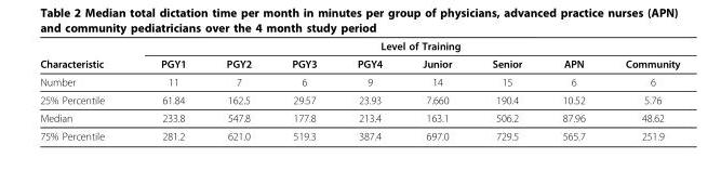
<table><thead><tr><td rowspan="2">Characteristic</td><td colspan="8">Level of Training</td></tr><tr><td>PGY1</td><td>PGY2</td><td>PGY3</td><td>PGY4</td><td>Junior</td><td>Senior</td><td>APN</td><td>Community</td></tr></thead><tbody><tr><td>Number</td><td>11</td><td>7</td><td>6</td><td>9</td><td>14</td><td>15</td><td>6</td><td>6</td></tr><tr><td>25% Percentile</td><td>61.84</td><td>162.5</td><td>29.57</td><td>23.93</td><td>7.660</td><td>190.4</td><td>10.52</td><td>5.76</td></tr><tr><td>Median</td><td>233.8</td><td>547.8</td><td>177.8</td><td>213.4</td><td>163.1</td><td>506.2</td><td>87.96</td><td>48.62</td></tr><tr><td>75% Percentile</td><td>281.2</td><td>621.0</td><td>519.3</td><td>387.4</td><td>697.0</td><td>729.5</td><td>565.7</td><td>251.9</td></tr></tbody></table>